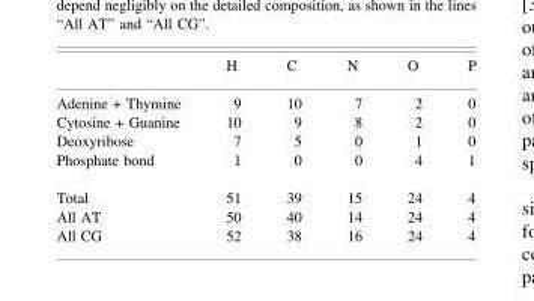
<table><thead><tr><td></td><td>H</td><td>C</td><td>N</td><td>O</td><td>P</td></tr></thead><tbody><tr><td>Adenine + Thymine</td><td>9</td><td>10</td><td>7</td><td>2</td><td>0</td></tr><tr><td>Cytosine + Guanine</td><td>10</td><td>9</td><td>8</td><td>2</td><td>0</td></tr><tr><td>Deoxyribose</td><td>7</td><td>5</td><td>0</td><td>1</td><td>0</td></tr><tr><td>Phosphate bond</td><td>1</td><td>0</td><td>0</td><td>4</td><td>1</td></tr><tr><td>Total</td><td>51</td><td>39</td><td>15</td><td>24</td><td>4</td></tr><tr><td>All AT</td><td>50</td><td>40</td><td>14</td><td>24</td><td>4</td></tr><tr><td>All CG</td><td>52</td><td>38</td><td>16</td><td>24</td><td>4</td></tr></tbody></table>